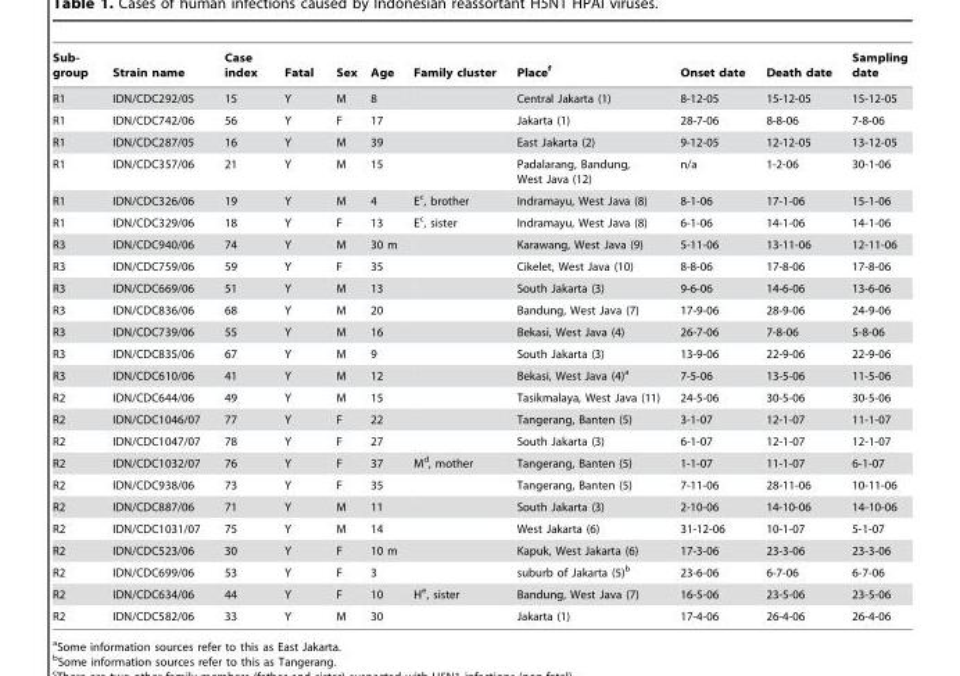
<table><thead><tr><td>Sub- group</td><td>Strain name</td><td>Case index</td><td>Fatal</td><td>Sex</td><td>Age</td><td>Family cluster</td><td>Place<sup>f</sup></td><td>Onset date</td><td>Death date</td><td>Sampling date</td></tr></thead><tbody><tr><td>R1</td><td>IDN/CDC292/05</td><td>15</td><td>Y</td><td>M</td><td>8</td><td></td><td>Central Jakarta (1)</td><td>8-12-05</td><td>15-12-05</td><td>15-12-05</td></tr><tr><td>R1</td><td>IDN/CDC742/06</td><td>56</td><td>Y</td><td>F</td><td>17</td><td></td><td>Jakarta (1)</td><td>28-7-06</td><td>8-8-06</td><td>7-8-06</td></tr><tr><td>R1</td><td>IDN/CDC287/05</td><td>16</td><td>Y</td><td>M</td><td>39</td><td></td><td>East Jakarta (2)</td><td>9-12-05</td><td>12-12-05</td><td>13-12-05</td></tr><tr><td>R1</td><td>IDN/CDC357/06</td><td>21</td><td>Y</td><td>M</td><td>15</td><td></td><td>Padalarang, Bandung, West Java (12)</td><td>n/a</td><td>1-2-06</td><td>30-1-06</td></tr><tr><td>R1</td><td>IDN/CDC326/06</td><td>19</td><td>Y</td><td>M</td><td>4</td><td>E<sup>c</sup>, brother</td><td>Indramayu, West Java (8)</td><td>8-1-06</td><td>17-1-06</td><td>15-1-06</td></tr><tr><td>R1</td><td>IDN/CDC329/06</td><td>18</td><td>Y</td><td>F</td><td>13</td><td>E<sup>c</sup>, sister</td><td>Indramayu, West Java (8)</td><td>6-1-06</td><td>14-1-06</td><td>14-1-06</td></tr><tr><td>R3</td><td>IDN/CDC940/06</td><td>74</td><td>Y</td><td>M</td><td>30 m</td><td></td><td>Karawang, West Java (9)</td><td>5-11-06</td><td>13-11-06</td><td>12-11-06</td></tr><tr><td>R3</td><td>IDN/CDC759/06</td><td>59</td><td>Y</td><td>F</td><td>35</td><td></td><td>Cikelet, West Java (10)</td><td>8-8-06</td><td>17-8-06</td><td>17-8-06</td></tr><tr><td>R3</td><td>IDN/CDC669/06</td><td>51</td><td>Y</td><td>M</td><td>13</td><td></td><td>South Jakarta (3)</td><td>9-6-06</td><td>14-6-06</td><td>13-6-06</td></tr><tr><td>R3</td><td>IDN/CDC836/06</td><td>68</td><td>Y</td><td>M</td><td>20</td><td></td><td>Bandung, West Java (7)</td><td>17-9-06</td><td>28-9-06</td><td>24-9-06</td></tr><tr><td>R3</td><td>IDN/CDC739/06</td><td>55</td><td>Y</td><td>M</td><td>16</td><td></td><td>Bekasi, West Java (4)</td><td>26-7-06</td><td>7-8-06</td><td>5-8-06</td></tr><tr><td>R3</td><td>IDN/CDC835/06</td><td>67</td><td>Y</td><td>M</td><td>9</td><td></td><td>South Jakarta (3)</td><td>13-9-06</td><td>22-9-06</td><td>22-9-06</td></tr><tr><td>R3</td><td>IDN/CDC610/06</td><td>41</td><td>Y</td><td>M</td><td>12</td><td></td><td>Bekasi, West Java (4)<sup>a</sup></td><td>7-5-06</td><td>13-5-06</td><td>11-5-06</td></tr><tr><td>R2</td><td>IDN/CDC644/06</td><td>49</td><td>Y</td><td>M</td><td>15</td><td></td><td>Tasikmalaya, West Java (11)</td><td>24-5-06</td><td>30-5-06</td><td>30-5-06</td></tr><tr><td>R2</td><td>IDN/CDC1046/07</td><td>77</td><td>Y</td><td>F</td><td>22</td><td></td><td>Tangerang, Banten (5)</td><td>3-1-07</td><td>12-1-07</td><td>11-1-07</td></tr><tr><td>R2</td><td>IDN/CDC1047/07</td><td>78</td><td>Y</td><td>F</td><td>27</td><td></td><td>South Jakarta (3)</td><td>6-1-07</td><td>12-1-07</td><td>12-1-07</td></tr><tr><td>R2</td><td>IDN/CDC1032/07</td><td>76</td><td>Y</td><td>F</td><td>37</td><td>M<sup>d</sup>, mother</td><td>Tangerang, Banten (5)</td><td>1-1-07</td><td>11-1-07</td><td>6-1-07</td></tr><tr><td>R2</td><td>IDN/CDC938/06</td><td>73</td><td>Y</td><td>F</td><td>35</td><td></td><td>Tangerang, Banten (5)</td><td>7-11-06</td><td>28-11-06</td><td>10-11-06</td></tr><tr><td>R2</td><td>IDN/CDC887/06</td><td>71</td><td>Y</td><td>M</td><td>11</td><td></td><td>South Jakarta (3)</td><td>2-10-06</td><td>14-10-06</td><td>14-10-06</td></tr><tr><td>R2</td><td>IDN/CDC1031/07</td><td>75</td><td>Y</td><td>M</td><td>14</td><td></td><td>West Jakarta (6)</td><td>31-12-06</td><td>10-1-07</td><td>5-1-07</td></tr><tr><td>R2</td><td>IDN/CDC523/06</td><td>30</td><td>Y</td><td>F</td><td>10 m</td><td></td><td>Kapuk, West Jakarta (6)</td><td>17-3-06</td><td>23-3-06</td><td>23-3-06</td></tr><tr><td>R2</td><td>IDN/CDC699/06</td><td>53</td><td>Y</td><td>F</td><td>3</td><td></td><td>suburb of Jakarta (5)<sup>b</sup></td><td>23-6-06</td><td>6-7-06</td><td>6-7-06</td></tr><tr><td>R2</td><td>IDN/CDC634/06</td><td>44</td><td>Y</td><td>F</td><td>10</td><td>H<sup>e</sup>, sister</td><td>Bandung, West Java (7)</td><td>16-5-06</td><td>23-5-06</td><td>23-5-06</td></tr><tr><td>R2</td><td>IDN/CDC582/06</td><td>33</td><td>Y</td><td>M</td><td>30</td><td></td><td>Jakarta (1)</td><td>17-4-06</td><td>26-4-06</td><td>26-4-06</td></tr></tbody></table>